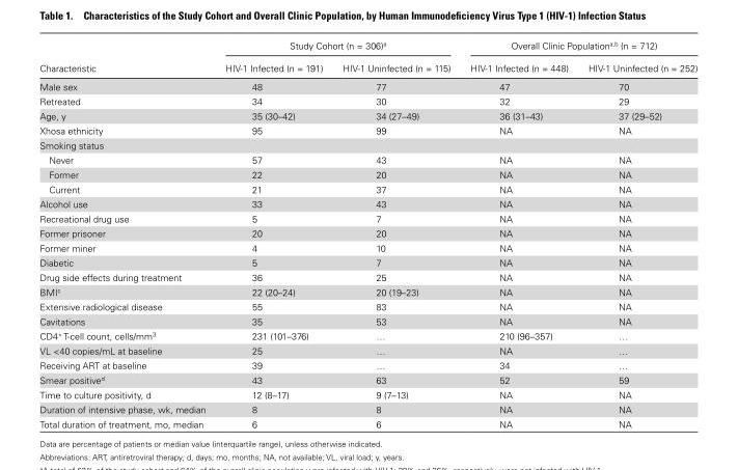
<table><thead><tr><td rowspan="2">Characteristic</td><td colspan="2">Study Cohort (n = 306)<sup>a</sup></td><td colspan="2">Overall Clinic Population<sup>a,b</sup> (n = 712)</td></tr><tr><td>HIV-1 Infected (n = 191)</td><td>HIV-1 Uninfected (n = 115)</td><td>HIV-1 Infected (n = 448)</td><td>HIV-1 Uninfected (n = 252)</td></tr></thead><tbody><tr><td>Male sex</td><td>48</td><td>77</td><td>47</td><td>70</td></tr><tr><td>Retreated</td><td>34</td><td>30</td><td>32</td><td>29</td></tr><tr><td>Age, y</td><td>35 (30–42)</td><td>34 (27–49)</td><td>36 (31–43)</td><td>37 (29–52)</td></tr><tr><td>Xhosa ethnicity</td><td>95</td><td>99</td><td>NA</td><td>NA</td></tr><tr><td colspan="5">Smoking status</td></tr><tr><td>Never</td><td>57</td><td>43</td><td>NA</td><td>NA</td></tr><tr><td>Former</td><td>22</td><td>20</td><td>NA</td><td>NA</td></tr><tr><td>Current</td><td>21</td><td>37</td><td>NA</td><td>NA</td></tr><tr><td>Alcohol use</td><td>33</td><td>43</td><td>NA</td><td>NA</td></tr><tr><td>Recreational drug use</td><td>5</td><td>7</td><td>NA</td><td>NA</td></tr><tr><td>Former prisoner</td><td>20</td><td>20</td><td>NA</td><td>NA</td></tr><tr><td>Former miner</td><td>4</td><td>10</td><td>NA</td><td>NA</td></tr><tr><td>Diabetic</td><td>5</td><td>7</td><td>NA</td><td>NA</td></tr><tr><td>Drug side effects during treatment</td><td>36</td><td>25</td><td>NA</td><td>NA</td></tr><tr><td>BMI<sup>c</sup></td><td>22 (20–24)</td><td>20 (19–23)</td><td>NA</td><td>NA</td></tr><tr><td>Extensive radiological disease</td><td>55</td><td>83</td><td>NA</td><td>NA</td></tr><tr><td>Cavitations</td><td>35</td><td>53</td><td>NA</td><td>NA</td></tr><tr><td>CD4<sup>+</sup> T-cell count, cells/mm<sup>3</sup></td><td>231 (101–376)</td><td>…</td><td>210 (96–357)</td><td>…</td></tr><tr><td>VL &lt;40 copies/mL at baseline</td><td>25</td><td>…</td><td>NA</td><td>…</td></tr><tr><td>Receiving ART at baseline</td><td>39</td><td>…</td><td>34</td><td>…</td></tr><tr><td>Smear positive<sup>d</sup></td><td>43</td><td>63</td><td>52</td><td>59</td></tr><tr><td>Time to culture positivity, d</td><td>12 (8–17)</td><td>9 (7–13)</td><td>NA</td><td>NA</td></tr><tr><td>Duration of intensive phase, wk, median</td><td>8</td><td>8</td><td>NA</td><td>NA</td></tr><tr><td>Total duration of treatment, mo, median</td><td>6</td><td>6</td><td>NA</td><td>NA</td></tr></tbody></table>